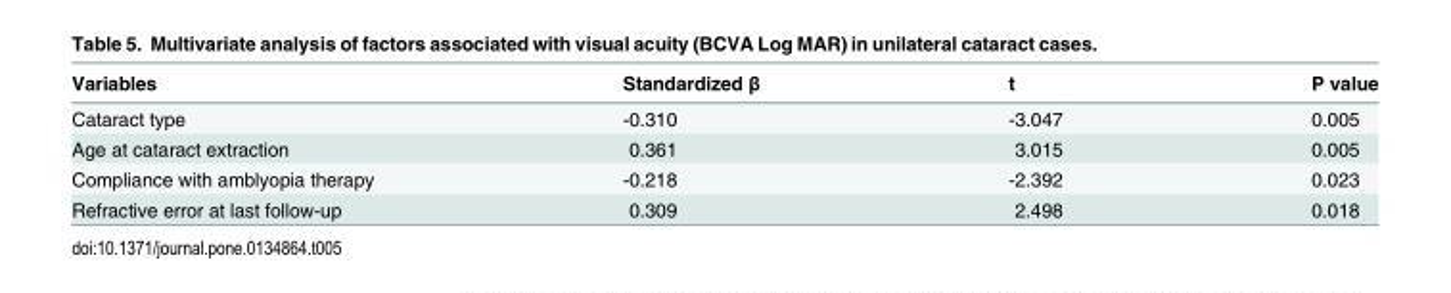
<table><thead><tr><td>Variables</td><td>Standardized β</td><td>t</td><td>P value</td></tr></thead><tbody><tr><td>Cataract type</td><td>-0.310</td><td>-3.047</td><td>0.005</td></tr><tr><td>Age at cataract extraction</td><td>0.361</td><td>3.015</td><td>0.005</td></tr><tr><td>Compliance with amblyopia therapy</td><td>-0.218</td><td>-2.392</td><td>0.023</td></tr><tr><td>Refractive error at last follow-up</td><td>0.309</td><td>2.498</td><td>0.018</td></tr></tbody></table>